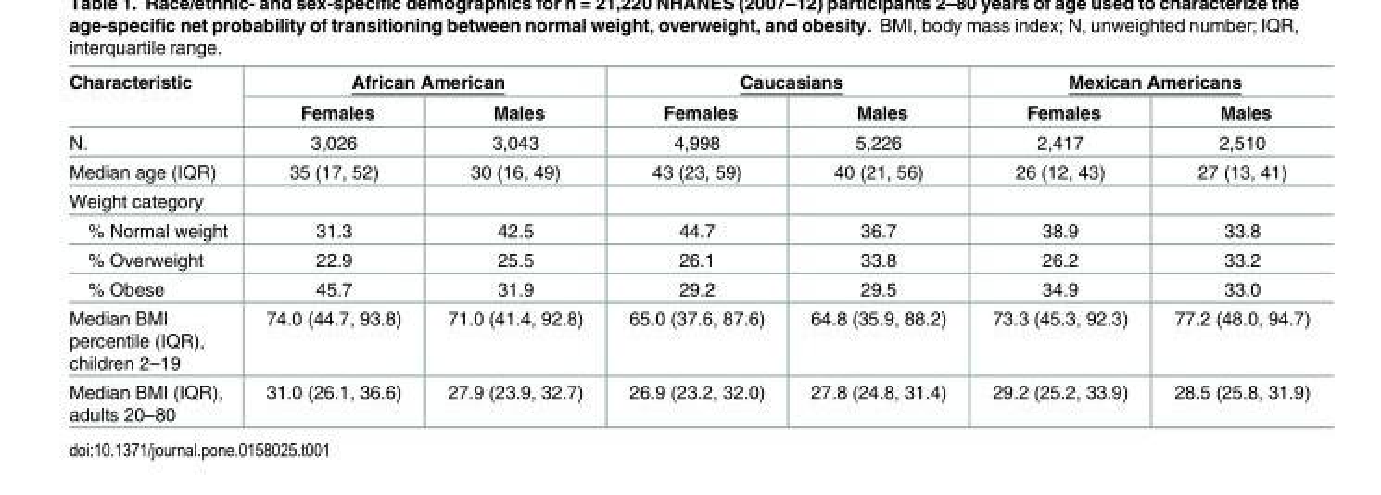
<table><thead><tr><td rowspan="2">Characteristic</td><td colspan="2">African American</td><td colspan="2">Caucasians</td><td colspan="2">Mexican Americans</td></tr><tr><td>Females</td><td>Males</td><td>Females</td><td>Males</td><td>Females</td><td>Males</td></tr></thead><tbody><tr><td>N.</td><td>3,026</td><td>3,043</td><td>4,998</td><td>5,226</td><td>2,417</td><td>2,510</td></tr><tr><td>Median age (IQR)</td><td>35 (17, 52)</td><td>30 (16, 49)</td><td>43 (23, 59)</td><td>40 (21, 56)</td><td>26 (12, 43)</td><td>27 (13, 41)</td></tr><tr><td colspan="7">Weight category</td></tr><tr><td>% Normal weight</td><td>31.3</td><td>42.5</td><td>44.7</td><td>36.7</td><td>38.9</td><td>33.8</td></tr><tr><td>% Overweight</td><td>22.9</td><td>25.5</td><td>26.1</td><td>33.8</td><td>26.2</td><td>33.2</td></tr><tr><td>% Obese</td><td>45.7</td><td>31.9</td><td>29.2</td><td>29.5</td><td>34.9</td><td>33.0</td></tr><tr><td>Median BMI percentile (IQR), children 2–19</td><td>74.0 (44.7, 93.8)</td><td>71.0 (41.4, 92.8)</td><td>65.0 (37.6, 87.6)</td><td>64.8 (35.9, 88.2)</td><td>73.3 (45.3, 92.3)</td><td>77.2 (48.0, 94.7)</td></tr><tr><td>Median BMI (IQR), adults 20–80</td><td>31.0 (26.1, 36.6)</td><td>27.9 (23.9, 32.7)</td><td>26.9 (23.2, 32.0)</td><td>27.8 (24.8, 31.4)</td><td>29.2 (25.2, 33.9)</td><td>28.5 (25.8, 31.9)</td></tr></tbody></table>